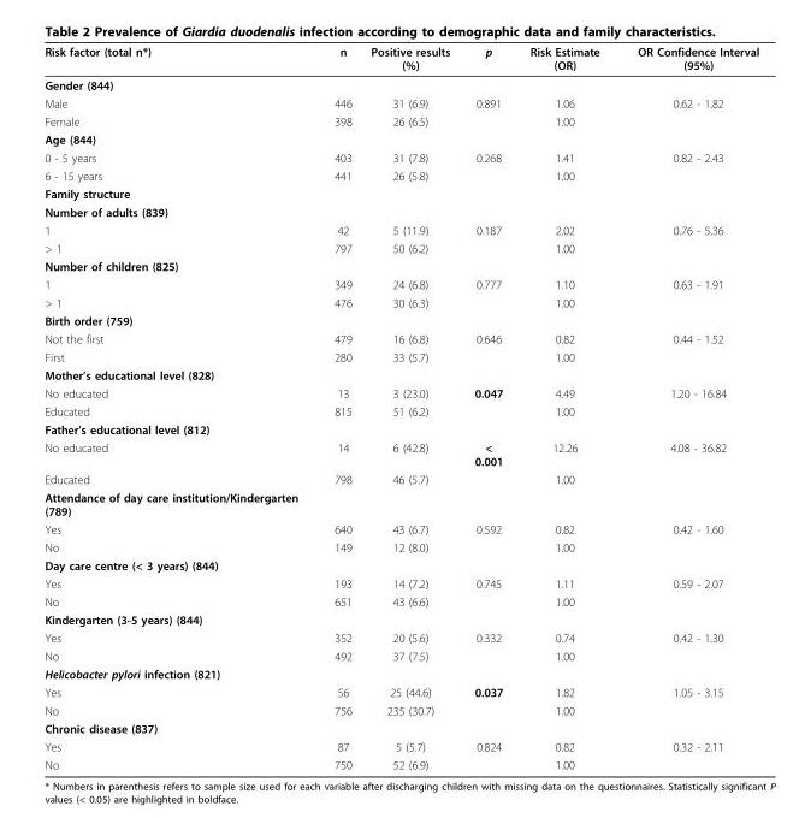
<table><thead><tr><td>Risk factor (total n*)</td><td>n</td><td>Positive results (%)</td><td>p</td><td>Risk Estimate (OR)</td><td>OR Confidence Interval (95%)</td></tr></thead><tbody><tr><td colspan="6">Gender (844)</td></tr><tr><td>Male</td><td>446</td><td>31 (6.9)</td><td>0.891</td><td>1.06</td><td>0.62 - 1.82</td></tr><tr><td>Female</td><td>398</td><td>26 (6.5)</td><td></td><td>1.00</td><td></td></tr><tr><td colspan="6">Age (844)</td></tr><tr><td>0 - 5 years</td><td>403</td><td>31 (7.8)</td><td>0.268</td><td>1.41</td><td>0.82 - 2.43</td></tr><tr><td>6 - 15 years</td><td>441</td><td>26 (5.8)</td><td></td><td>1.00</td><td></td></tr><tr><td colspan="6">Family structure</td></tr><tr><td colspan="6">Number of adults (839)</td></tr><tr><td>1</td><td>42</td><td>5 (11.9)</td><td>0.187</td><td>2.02</td><td>0.76 - 5.36</td></tr><tr><td>&gt; 1</td><td>797</td><td>50 (6.2)</td><td></td><td>1.00</td><td></td></tr><tr><td colspan="6">Number of children (825)</td></tr><tr><td>1</td><td>349</td><td>24 (6.8)</td><td>0.777</td><td>1.10</td><td>0.63 - 1.91</td></tr><tr><td>&gt; 1</td><td>476</td><td>30 (6.3)</td><td></td><td>1.00</td><td></td></tr><tr><td colspan="6">Birth order (759)</td></tr><tr><td>Not the first</td><td>479</td><td>16 (6.8)</td><td>0.646</td><td>0.82</td><td>0.44 - 1.52</td></tr><tr><td>First</td><td>280</td><td>33 (5.7)</td><td></td><td>1.00</td><td></td></tr><tr><td colspan="6">Mother’s educational level (828)</td></tr><tr><td>No educated</td><td>13</td><td>3 (23.0)</td><td>0.047</td><td>4.49</td><td>1.20 - 16.84</td></tr><tr><td>Educated</td><td>815</td><td>51 (6.2)</td><td></td><td>1.00</td><td></td></tr><tr><td colspan="6">Father’s educational level (812)</td></tr><tr><td>No educated</td><td>14</td><td>6 (42.8)</td><td>&lt; 0.001</td><td>12.26</td><td>4.08 - 36.82</td></tr><tr><td>Educated</td><td>798</td><td>46 (5.7)</td><td></td><td>1.00</td><td></td></tr><tr><td colspan="6">Attendance of day care institution/Kindergarten (789)</td></tr><tr><td>Yes</td><td>640</td><td>43 (6.7)</td><td>0.592</td><td>0.82</td><td>0.42 - 1.60</td></tr><tr><td>No</td><td>149</td><td>12 (8.0)</td><td></td><td>1.00</td><td></td></tr><tr><td colspan="6">Day care centre (&lt; 3 years) (844)</td></tr><tr><td>Yes</td><td>193</td><td>14 (7.2)</td><td>0.745</td><td>1.11</td><td>0.59 - 2.07</td></tr><tr><td>No</td><td>651</td><td>43 (6.6)</td><td></td><td>1.00</td><td></td></tr><tr><td colspan="6">Kindergarten (3-5 years) (844)</td></tr><tr><td>Yes</td><td>352</td><td>20 (5.6)</td><td>0.332</td><td>0.74</td><td>0.42 - 1.30</td></tr><tr><td>No</td><td>492</td><td>37 (7.5)</td><td></td><td>1.00</td><td></td></tr><tr><td colspan="6">Helicobacter pylori infection (821)</td></tr><tr><td>Yes</td><td>56</td><td>25 (44.6)</td><td>0.037</td><td>1.82</td><td>1.05 - 3.15</td></tr><tr><td>No</td><td>756</td><td>235 (30.7)</td><td></td><td>1.00</td><td></td></tr><tr><td colspan="6">Chronic disease (837)</td></tr><tr><td>Yes</td><td>87</td><td>5 (5.7)</td><td>0.824</td><td>0.82</td><td>0.32 - 2.11</td></tr><tr><td>No</td><td>750</td><td>52 (6.9)</td><td></td><td>1.00</td><td></td></tr></tbody></table>